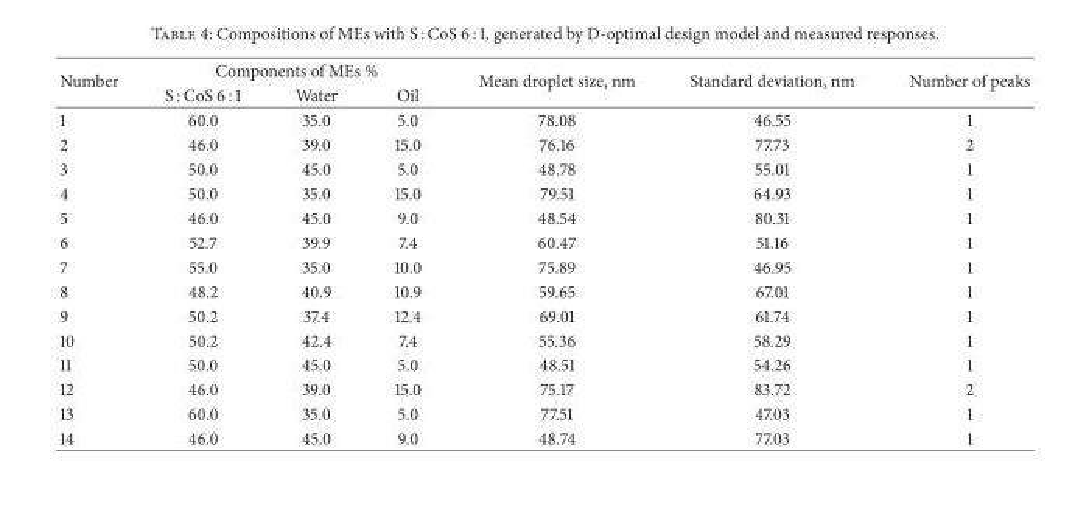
<table><thead><tr><td rowspan="2">Number</td><td colspan="3">Components of MEs %</td><td rowspan="2">Mean droplet size, nm</td><td rowspan="2">Standard deviation, nm</td><td rowspan="2">Number of peaks</td></tr><tr><td>S : CoS 6 : 1</td><td>Water</td><td>Oil</td></tr></thead><tbody><tr><td>1</td><td>60.0</td><td>35.0</td><td>5.0</td><td>78.08</td><td>46.55</td><td>1</td></tr><tr><td>2</td><td>46.0</td><td>39.0</td><td>15.0</td><td>76.16</td><td>77.73</td><td>2</td></tr><tr><td>3</td><td>50.0</td><td>45.0</td><td>5.0</td><td>48.78</td><td>55.01</td><td>1</td></tr><tr><td>4</td><td>50.0</td><td>35.0</td><td>15.0</td><td>79.51</td><td>64.93</td><td>1</td></tr><tr><td>5</td><td>46.0</td><td>45.0</td><td>9.0</td><td>48.54</td><td>80.31</td><td>1</td></tr><tr><td>6</td><td>52.7</td><td>39.9</td><td>7.4</td><td>60.47</td><td>51.16</td><td>1</td></tr><tr><td>7</td><td>55.0</td><td>35.0</td><td>10.0</td><td>75.89</td><td>46.95</td><td>1</td></tr><tr><td>8</td><td>48.2</td><td>40.9</td><td>10.9</td><td>59.65</td><td>67.01</td><td>1</td></tr><tr><td>9</td><td>50.2</td><td>37.4</td><td>12.4</td><td>69.01</td><td>61.74</td><td>1</td></tr><tr><td>10</td><td>50.2</td><td>42.4</td><td>7.4</td><td>55.36</td><td>58.29</td><td>1</td></tr><tr><td>11</td><td>50.0</td><td>45.0</td><td>5.0</td><td>48.51</td><td>54.26</td><td>1</td></tr><tr><td>12</td><td>46.0</td><td>39.0</td><td>15.0</td><td>75.17</td><td>83.72</td><td>2</td></tr><tr><td>13</td><td>60.0</td><td>35.0</td><td>5.0</td><td>77.51</td><td>47.03</td><td>1</td></tr><tr><td>14</td><td>46.0</td><td>45.0</td><td>9.0</td><td>48.74</td><td>77.03</td><td>1</td></tr></tbody></table>